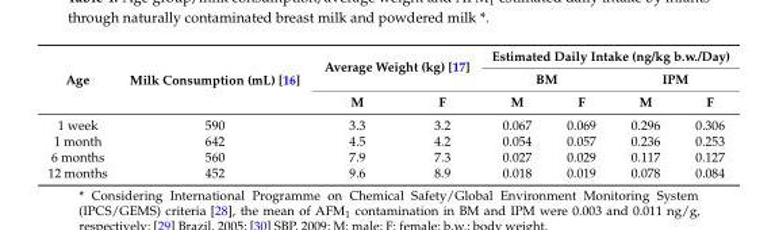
<table><thead><tr><td rowspan="3">Age</td><td rowspan="3">Milk Consumption (mL) [16]</td><td rowspan="2" colspan="2">Average Weight (kg) [17]</td><td colspan="4">Estimated Daily Intake (ng/kg b.w./Day)</td></tr><tr><td colspan="2">BM</td><td colspan="2">IPM</td></tr><tr><td>M</td><td>F</td><td>M</td><td>F</td><td>M</td><td>F</td></tr></thead><tbody><tr><td>1 week</td><td>590</td><td>3.3</td><td>3.2</td><td>0.067</td><td>0.069</td><td>0.296</td><td>0.306</td></tr><tr><td>1 month</td><td>642</td><td>4.5</td><td>4.2</td><td>0.054</td><td>0.057</td><td>0.236</td><td>0.253</td></tr><tr><td>6 months</td><td>560</td><td>7.9</td><td>7.3</td><td>0.027</td><td>0.029</td><td>0.117</td><td>0.127</td></tr><tr><td>12 months</td><td>452</td><td>9.6</td><td>8.9</td><td>0.018</td><td>0.019</td><td>0.078</td><td>0.084</td></tr></tbody></table>